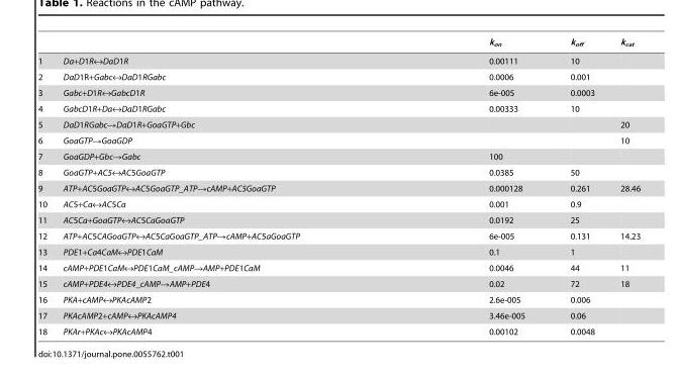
<table><thead><tr><td></td><td></td><td>k<sub>on</sub></td><td>k<sub>off</sub></td><td>k<sub>cat</sub></td></tr></thead><tbody><tr><td>1</td><td>Da+D1R↔DaD1R</td><td>0.00111</td><td>10</td><td></td></tr><tr><td>2</td><td>DaD1R+Gabc↔DaD1RGabc</td><td>0.0006</td><td>0.001</td><td></td></tr><tr><td>3</td><td>Gabc+D1R↔GabcD1R</td><td>6e-005</td><td>0.0003</td><td></td></tr><tr><td>4</td><td>GabcD1R+Da↔DaD1RGabc</td><td>0.00333</td><td>10</td><td></td></tr><tr><td>5</td><td>DaD1RGabc→DaD1R+GoaGTP+Gbc</td><td></td><td></td><td>20</td></tr><tr><td>6</td><td>GoaGTP→GoaGDP</td><td></td><td></td><td>10</td></tr><tr><td>7</td><td>GoaGDP+Gbc→Gabc</td><td>100</td><td></td><td></td></tr><tr><td>8</td><td>GoaGTP+AC5↔AC5GoaGTP</td><td>0.0385</td><td>50</td><td></td></tr><tr><td>9</td><td>ATP+AC5GoaGTP↔AC5GoaGTP_ATP→cAMP+AC5GoaGTP</td><td>0.000128</td><td>0.261</td><td>28.46</td></tr><tr><td>10</td><td>AC5+Ca↔AC5Ca</td><td>0.001</td><td>0.9</td><td></td></tr><tr><td>11</td><td>AC5Ca+GoaGTP↔AC5CaGoaGTP</td><td>0.0192</td><td>25</td><td></td></tr><tr><td>12</td><td>ATP+AC5CAGoaGTP↔AC5CaGoaGTP_ATP→cAMP+AC5aGoaGTP</td><td>6e-005</td><td>0.131</td><td>14.23</td></tr><tr><td>13</td><td>PDE1+Ca4CaM↔PDE1CaM</td><td>0.1</td><td>1</td><td></td></tr><tr><td>14</td><td>cAMP+PDE1CaM↔PDE1CaM_cAMP→AMP+PDE1CaM</td><td>0.0046</td><td>44</td><td>11</td></tr><tr><td>15</td><td>cAMP+PDE4↔PDE4_cAMP→AMP+PDE4</td><td>0.02</td><td>72</td><td>18</td></tr><tr><td>16</td><td>PKA+cAMP↔PKAcAMP2</td><td>2.6e-005</td><td>0.006</td><td></td></tr><tr><td>17</td><td>PKAcAMP2+cAMP↔PKAcAMP4</td><td>3.46e-005</td><td>0.06</td><td></td></tr><tr><td>18</td><td>PKAr+PKAc↔PKAcAMP4</td><td>0.00102</td><td>0.0048</td><td></td></tr></tbody></table>